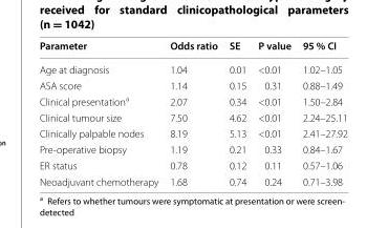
<table><thead><tr><td>Parameter</td><td>Odds ratio</td><td>SE</td><td>P value</td><td>95 % CI</td></tr></thead><tbody><tr><td>Age at diagnosis</td><td>1.04</td><td>0.01</td><td>&lt;0.01</td><td>1.02–1.05</td></tr><tr><td>ASA score</td><td>1.14</td><td>0.15</td><td>0.31</td><td>0.88–1.49</td></tr><tr><td>Clinical presentation<sup>a</sup></td><td>2.07</td><td>0.34</td><td>&lt;0.01</td><td>1.50–2.84</td></tr><tr><td>Clinical tumour size</td><td>7.50</td><td>4.62</td><td>&lt;0.01</td><td>2.24–25.11</td></tr><tr><td>Clinically palpable nodes</td><td>8.19</td><td>5.13</td><td>&lt;0.01</td><td>2.41–27.92</td></tr><tr><td>Pre-operative biopsy</td><td>1.19</td><td>0.21</td><td>0.33</td><td>0.84–1.67</td></tr><tr><td>ER status</td><td>0.78</td><td>0.12</td><td>0.11</td><td>0.57–1.06</td></tr><tr><td>Neoadjuvant chemotherapy</td><td>1.68</td><td>0.74</td><td>0.24</td><td>0.71–3.98</td></tr></tbody></table>